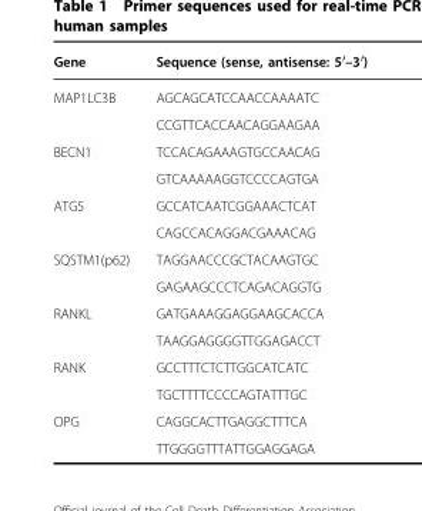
<table><thead><tr><td>Gene</td><td>Sequence (sense, antisense: 5′–3′)</td></tr></thead><tbody><tr><td rowspan="2">MAP1LC3B</td><td>AGCAGCATCCAACCAAAATC</td></tr><tr><td>CCGTTCACCAACAGGAAGAA</td></tr><tr><td rowspan="2">BECN1</td><td>TCCACAGAAAGTGCCAACAG</td></tr><tr><td>GTCAAAAAGGTCCCCAGTGA</td></tr><tr><td rowspan="2">ATG5</td><td>GCCATCAATCGGAAACTCAT</td></tr><tr><td>CAGCCACAGGACGAAACAG</td></tr><tr><td rowspan="2">SQSTM1(p62)</td><td>TAGGAACCCGCTACAAGTGC</td></tr><tr><td>GAGAAGCCCTCAGACAGGTG</td></tr><tr><td rowspan="2">RANKL</td><td>GATGAAAGGAGGAAGCACCA</td></tr><tr><td>TAAGGAGGGGTTGGAGACCT</td></tr><tr><td rowspan="2">RANK</td><td>GCCTTTCTCTTGGCATCATC</td></tr><tr><td>TGCTTTTCCCCAGTATTTGC</td></tr><tr><td rowspan="2">OPG</td><td>CAGGCACTTGAGGCTTTCA</td></tr><tr><td>TTGGGGTTTATTGGAGGAGA</td></tr></tbody></table>